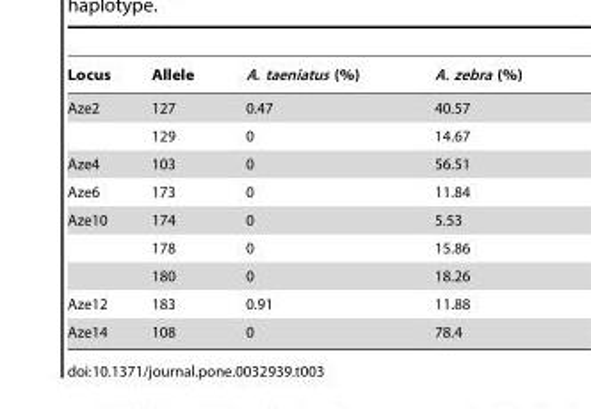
<table><thead><tr><td>Locus</td><td>Allele</td><td>A. taeniatus (%)</td><td>A. zebra (%)</td></tr></thead><tbody><tr><td rowspan="2">Aze2</td><td>127</td><td>0.47</td><td>40.57</td></tr><tr><td>129</td><td>0</td><td>14.67</td></tr><tr><td>Aze4</td><td>103</td><td>0</td><td>56.51</td></tr><tr><td>Aze6</td><td>173</td><td>0</td><td>11.84</td></tr><tr><td rowspan="3">Aze10</td><td>174</td><td>0</td><td>5.53</td></tr><tr><td>178</td><td>0</td><td>15.86</td></tr><tr><td>180</td><td>0</td><td>18.26</td></tr><tr><td>Aze12</td><td>183</td><td>0.91</td><td>11.88</td></tr><tr><td>Aze14</td><td>108</td><td>0</td><td>78.4</td></tr></tbody></table>